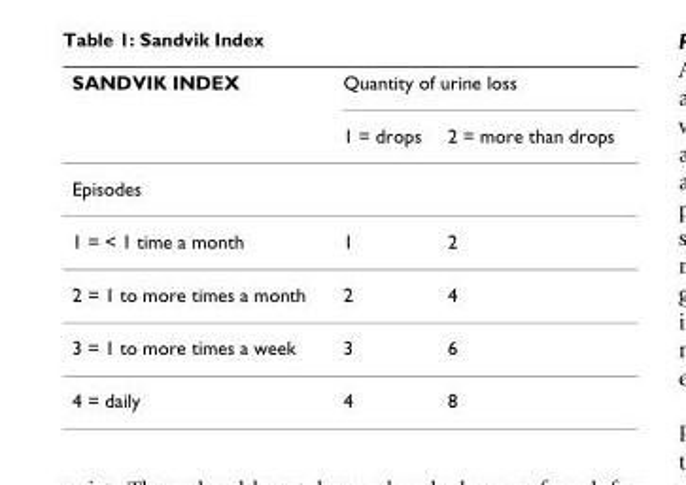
<table><thead><tr><td rowspan="2">SANDVIK INDEX</td><td colspan="2">Quantity of urine loss</td></tr><tr><td>1 = drops</td><td>2 = more than drops</td></tr></thead><tbody><tr><td colspan="3">Episodes</td></tr><tr><td>1 = &lt; 1 time a month</td><td>1</td><td>2</td></tr><tr><td>2 = 1 to more times a month</td><td>2</td><td>4</td></tr><tr><td>3 = 1 to more times a week</td><td>3</td><td>6</td></tr><tr><td>4 = daily</td><td>4</td><td>8</td></tr></tbody></table>